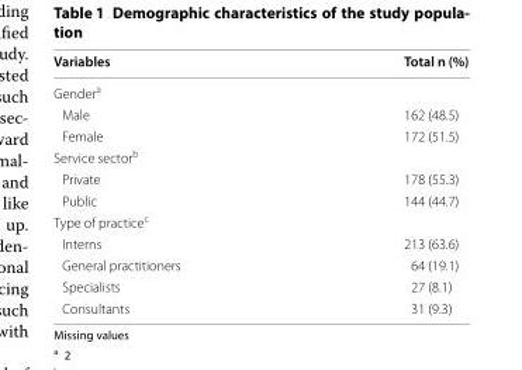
<table><thead><tr><td>Variables</td><td>Total n (%)</td></tr></thead><tbody><tr><td colspan="2">Gender<sup>a</sup></td></tr><tr><td>Male</td><td>162 (48.5)</td></tr><tr><td>Female</td><td>172 (51.5)</td></tr><tr><td colspan="2">Service sector<sup>b</sup></td></tr><tr><td>Private</td><td>178 (55.3)</td></tr><tr><td>Public</td><td>144 (44.7)</td></tr><tr><td colspan="2">Type of practice<sup>c</sup></td></tr><tr><td>Interns</td><td>213 (63.6)</td></tr><tr><td>General practitioners</td><td>64 (19.1)</td></tr><tr><td>Specialists</td><td>27 (8.1)</td></tr><tr><td>Consultants</td><td>31 (9.3)</td></tr></tbody></table>